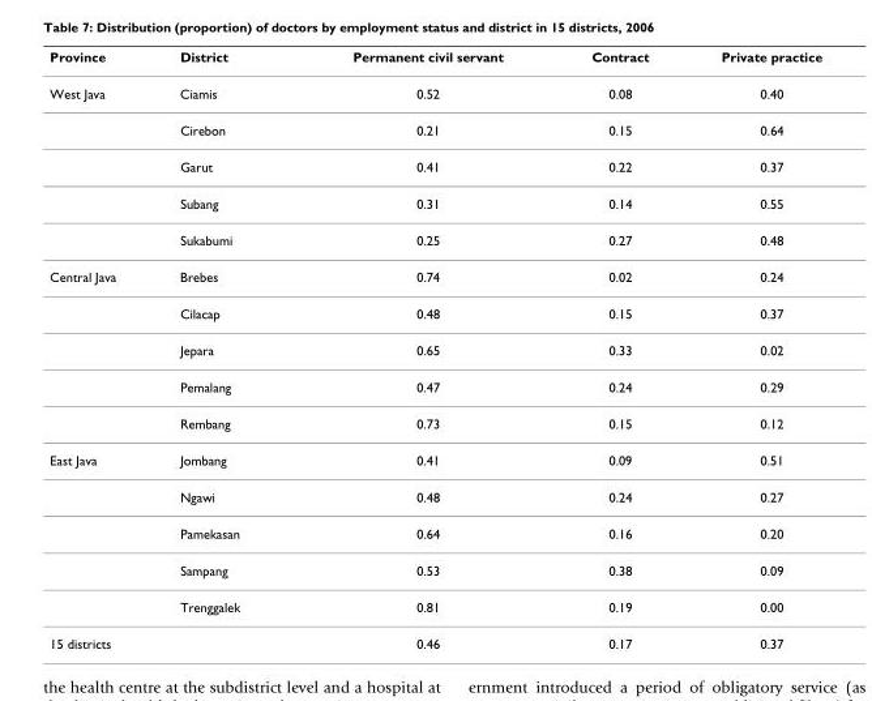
<table><thead><tr><td>Province</td><td>District</td><td>Permanent civil servant</td><td>Contract</td><td>Private practice</td></tr></thead><tbody><tr><td rowspan="5">West Java</td><td>Ciamis</td><td>0.52</td><td>0.08</td><td>0.40</td></tr><tr><td>Cirebon</td><td>0.21</td><td>0.15</td><td>0.64</td></tr><tr><td>Garut</td><td>0.41</td><td>0.22</td><td>0.37</td></tr><tr><td>Subang</td><td>0.31</td><td>0.14</td><td>0.55</td></tr><tr><td>Sukabumi</td><td>0.25</td><td>0.27</td><td>0.48</td></tr><tr><td rowspan="5">Central Java</td><td>Brebes</td><td>0.74</td><td>0.02</td><td>0.24</td></tr><tr><td>Cilacap</td><td>0.48</td><td>0.15</td><td>0.37</td></tr><tr><td>Jepara</td><td>0.65</td><td>0.33</td><td>0.02</td></tr><tr><td>Pemalang</td><td>0.47</td><td>0.24</td><td>0.29</td></tr><tr><td>Rembang</td><td>0.73</td><td>0.15</td><td>0.12</td></tr><tr><td rowspan="5">East Java</td><td>Jombang</td><td>0.41</td><td>0.09</td><td>0.51</td></tr><tr><td>Ngawi</td><td>0.48</td><td>0.24</td><td>0.27</td></tr><tr><td>Pamekasan</td><td>0.64</td><td>0.16</td><td>0.20</td></tr><tr><td>Sampang</td><td>0.53</td><td>0.38</td><td>0.09</td></tr><tr><td>Trenggalek</td><td>0.81</td><td>0.19</td><td>0.00</td></tr><tr><td>15 districts</td><td></td><td>0.46</td><td>0.17</td><td>0.37</td></tr></tbody></table>